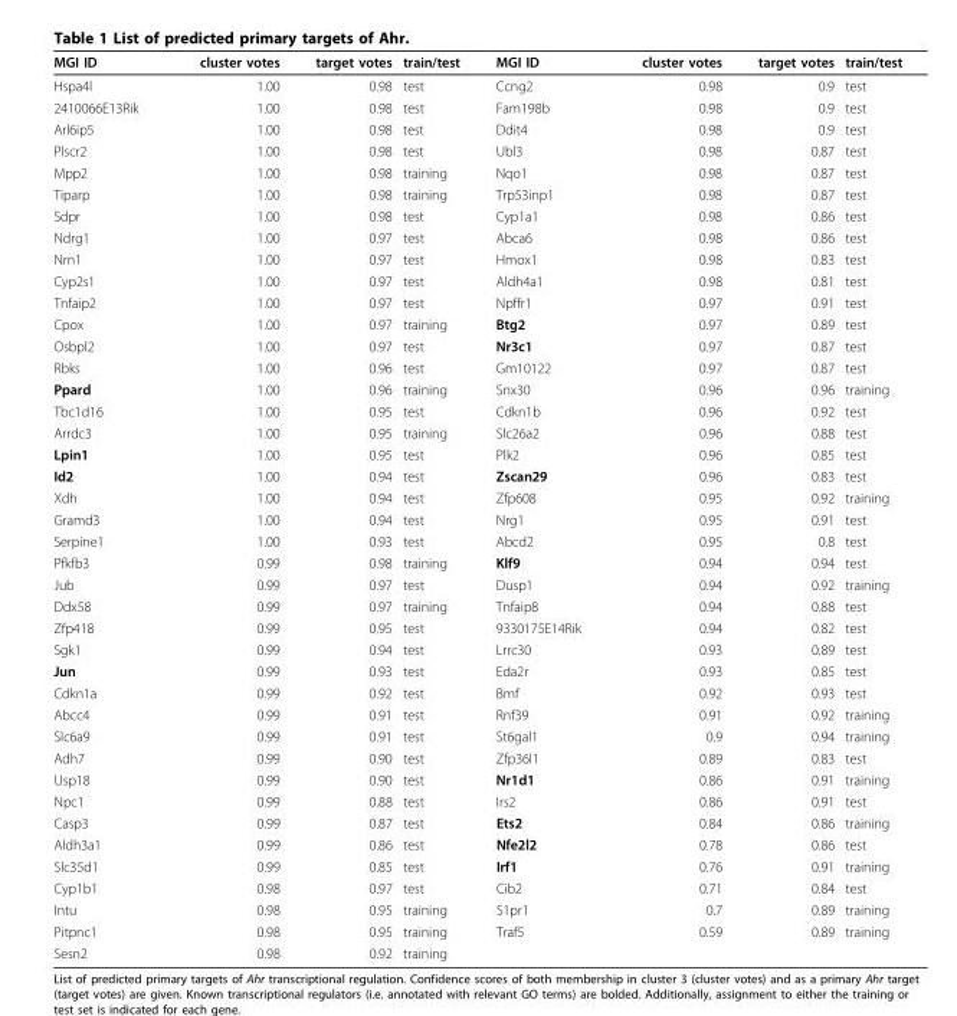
<table><thead><tr><td>MGI ID</td><td>cluster votes</td><td>target votes</td><td>train/test</td><td>MGI ID</td><td>cluster votes</td><td>target votes</td><td>train/test</td></tr></thead><tbody><tr><td>Hspa4l</td><td>1.00</td><td>0.98</td><td>test</td><td>Ccng2</td><td>0.98</td><td>0.9</td><td>test</td></tr><tr><td>2410066E13Rik</td><td>1.00</td><td>0.98</td><td>test</td><td>Fam198b</td><td>0.98</td><td>0.9</td><td>test</td></tr><tr><td>Arl6ip5</td><td>1.00</td><td>0.98</td><td>test</td><td>Ddit4</td><td>0.98</td><td>0.9</td><td>test</td></tr><tr><td>Plscr2</td><td>1.00</td><td>0.98</td><td>test</td><td>Ubl3</td><td>0.98</td><td>0.87</td><td>test</td></tr><tr><td>Mpp2</td><td>1.00</td><td>0.98</td><td>training</td><td>Nqo1</td><td>0.98</td><td>0.87</td><td>test</td></tr><tr><td>Tiparp</td><td>1.00</td><td>0.98</td><td>training</td><td>Trp53inp1</td><td>0.98</td><td>0.87</td><td>test</td></tr><tr><td>Sdpr</td><td>1.00</td><td>0.98</td><td>test</td><td>Cyp1a1</td><td>0.98</td><td>0.86</td><td>test</td></tr><tr><td>Ndrg1</td><td>1.00</td><td>0.97</td><td>test</td><td>Abca6</td><td>0.98</td><td>0.86</td><td>test</td></tr><tr><td>Nrn1</td><td>1.00</td><td>0.97</td><td>test</td><td>Hmox1</td><td>0.98</td><td>0.83</td><td>test</td></tr><tr><td>Cyp2s1</td><td>1.00</td><td>0.97</td><td>test</td><td>Aldh4a1</td><td>0.98</td><td>0.81</td><td>test</td></tr><tr><td>Tnfaip2</td><td>1.00</td><td>0.97</td><td>test</td><td>Npffr1</td><td>0.97</td><td>0.91</td><td>test</td></tr><tr><td>Cpox</td><td>1.00</td><td>0.97</td><td>training</td><td>Btg2</td><td>0.97</td><td>0.89</td><td>test</td></tr><tr><td>Osbpl2</td><td>1.00</td><td>0.97</td><td>test</td><td>Nr3c1</td><td>0.97</td><td>0.87</td><td>test</td></tr><tr><td>Rbks</td><td>1.00</td><td>0.96</td><td>test</td><td>Gm10122</td><td>0.97</td><td>0.87</td><td>test</td></tr><tr><td>Ppard</td><td>1.00</td><td>0.96</td><td>training</td><td>Snx30</td><td>0.96</td><td>0.96</td><td>training</td></tr><tr><td>Tbc1d16</td><td>1.00</td><td>0.95</td><td>test</td><td>Cdkn1b</td><td>0.96</td><td>0.92</td><td>test</td></tr><tr><td>Arrdc3</td><td>1.00</td><td>0.95</td><td>training</td><td>Slc26a2</td><td>0.96</td><td>0.88</td><td>test</td></tr><tr><td>Lpin1</td><td>1.00</td><td>0.95</td><td>test</td><td>Plk2</td><td>0.96</td><td>0.85</td><td>test</td></tr><tr><td>Id2</td><td>1.00</td><td>0.94</td><td>test</td><td>Zscan29</td><td>0.96</td><td>0.83</td><td>test</td></tr><tr><td>Xdh</td><td>1.00</td><td>0.94</td><td>test</td><td>Zfp608</td><td>0.95</td><td>0.92</td><td>training</td></tr><tr><td>Gramd3</td><td>1.00</td><td>0.94</td><td>test</td><td>Nrg1</td><td>0.95</td><td>0.91</td><td>test</td></tr><tr><td>Serpine1</td><td>1.00</td><td>0.93</td><td>test</td><td>Abcd2</td><td>0.95</td><td>0.8</td><td>test</td></tr><tr><td>Pfkfb3</td><td>0.99</td><td>0.98</td><td>training</td><td>Klf9</td><td>0.94</td><td>0.94</td><td>test</td></tr><tr><td>Jub</td><td>0.99</td><td>0.97</td><td>test</td><td>Dusp1</td><td>0.94</td><td>0.92</td><td>training</td></tr><tr><td>Ddx58</td><td>0.99</td><td>0.97</td><td>training</td><td>Tnfaip8</td><td>0.94</td><td>0.88</td><td>test</td></tr><tr><td>Zfp418</td><td>0.99</td><td>0.95</td><td>test</td><td>9330175E14Rik</td><td>0.94</td><td>0.82</td><td>test</td></tr><tr><td>Sgk1</td><td>0.99</td><td>0.94</td><td>test</td><td>Lrrc30</td><td>0.93</td><td>0.89</td><td>test</td></tr><tr><td>Jun</td><td>0.99</td><td>0.93</td><td>test</td><td>Eda2r</td><td>0.93</td><td>0.85</td><td>test</td></tr><tr><td>Cdkn1a</td><td>0.99</td><td>0.92</td><td>test</td><td>Bmf</td><td>0.92</td><td>0.93</td><td>test</td></tr><tr><td>Abcc4</td><td>0.99</td><td>0.91</td><td>test</td><td>Rnf39</td><td>0.91</td><td>0.92</td><td>training</td></tr><tr><td>Slc6a9</td><td>0.99</td><td>0.91</td><td>test</td><td>St6gal1</td><td>0.9</td><td>0.94</td><td>training</td></tr><tr><td>Adh7</td><td>0.99</td><td>0.90</td><td>test</td><td>Zfp36l1</td><td>0.89</td><td>0.83</td><td>test</td></tr><tr><td>Usp18</td><td>0.99</td><td>0.90</td><td>test</td><td>Nr1d1</td><td>0.86</td><td>0.91</td><td>training</td></tr><tr><td>Npc1</td><td>0.99</td><td>0.88</td><td>test</td><td>Irs2</td><td>0.86</td><td>0.91</td><td>test</td></tr><tr><td>Casp3</td><td>0.99</td><td>0.87</td><td>test</td><td>Ets2</td><td>0.84</td><td>0.86</td><td>training</td></tr><tr><td>Aldh3a1</td><td>0.99</td><td>0.86</td><td>test</td><td>Nfe2l2</td><td>0.78</td><td>0.86</td><td>test</td></tr><tr><td>Slc35d1</td><td>0.99</td><td>0.85</td><td>test</td><td>Irf1</td><td>0.76</td><td>0.91</td><td>training</td></tr><tr><td>Cyp1b1</td><td>0.98</td><td>0.97</td><td>test</td><td>Cib2</td><td>0.71</td><td>0.84</td><td>test</td></tr><tr><td>Intu</td><td>0.98</td><td>0.95</td><td>training</td><td>S1pr1</td><td>0.7</td><td>0.89</td><td>training</td></tr><tr><td>Pitpnc1</td><td>0.98</td><td>0.95</td><td>training</td><td>Traf5</td><td>0.59</td><td>0.89</td><td>training</td></tr><tr><td>Sesn2</td><td>0.98</td><td>0.92</td><td>training</td><td></td><td></td><td></td><td></td></tr></tbody></table>